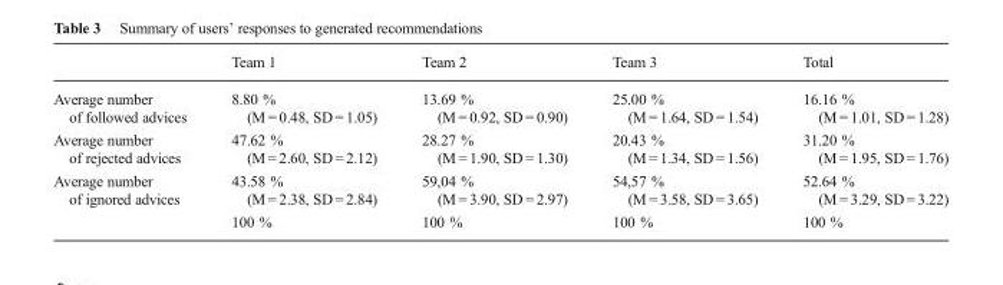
<table><thead><tr><td></td><td>Team 1</td><td>Team 2</td><td>Team 3</td><td>Total</td></tr></thead><tbody><tr><td>Average number of followed advices</td><td>8.80 % (M = 0.48, SD = 1.05)</td><td>13.69 % (M = 0.92, SD = 0.90)</td><td>25.00 % (M = 1.64, SD = 1.54)</td><td>16.16 % (M = 1.01, SD = 1.28)</td></tr><tr><td>Average number of rejected advices</td><td>47.62 % (M = 2.60, SD = 2.12)</td><td>28.27 % (M = 1.90, SD = 1.30)</td><td>20.43 % (M = 1.34, SD = 1.56)</td><td>31.20 % (M = 1.95, SD = 1.76)</td></tr><tr><td rowspan="2">Average number of ignored advices</td><td>43.58 % (M = 2.38, SD = 2.84)</td><td>59,04 % (M = 3.90, SD = 2.97)</td><td>54,57 % (M = 3.58, SD = 3.65)</td><td>52.64 % (M = 3.29, SD = 3.22)</td></tr><tr><td>100 %</td><td>100 %</td><td>100 %</td><td>100 %</td></tr></tbody></table>